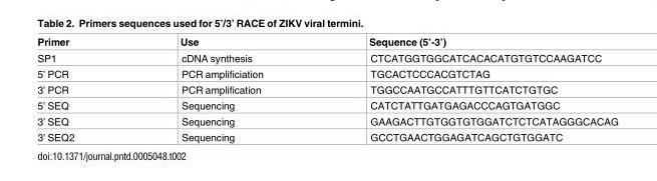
<table><thead><tr><td>Primer</td><td>Use</td><td>Sequence (5’-3’)</td></tr></thead><tbody><tr><td>SP1</td><td>cDNA synthesis</td><td>CTCATGGTGGCATCACACATGTGTCCAAGATCC</td></tr><tr><td>5’ PCR</td><td>PCR amplificiation</td><td>TGCACTCCCACGTCTAG</td></tr><tr><td>3’ PCR</td><td>PCR amplification</td><td>TGGCCAATGCCATTTGTTCATCTGTGC</td></tr><tr><td>5’ SEQ</td><td>Sequencing</td><td>CATCTATTGATGAGACCCAGTGATGGC</td></tr><tr><td>3’ SEQ</td><td>Sequencing</td><td>GAAGACTTGTGGTGTGGATCTCTCATAGGGCACAG</td></tr><tr><td>3’ SEQ2</td><td>Sequencing</td><td>GCCTGAACTGGAGATCAGCTGTGGATC</td></tr></tbody></table>